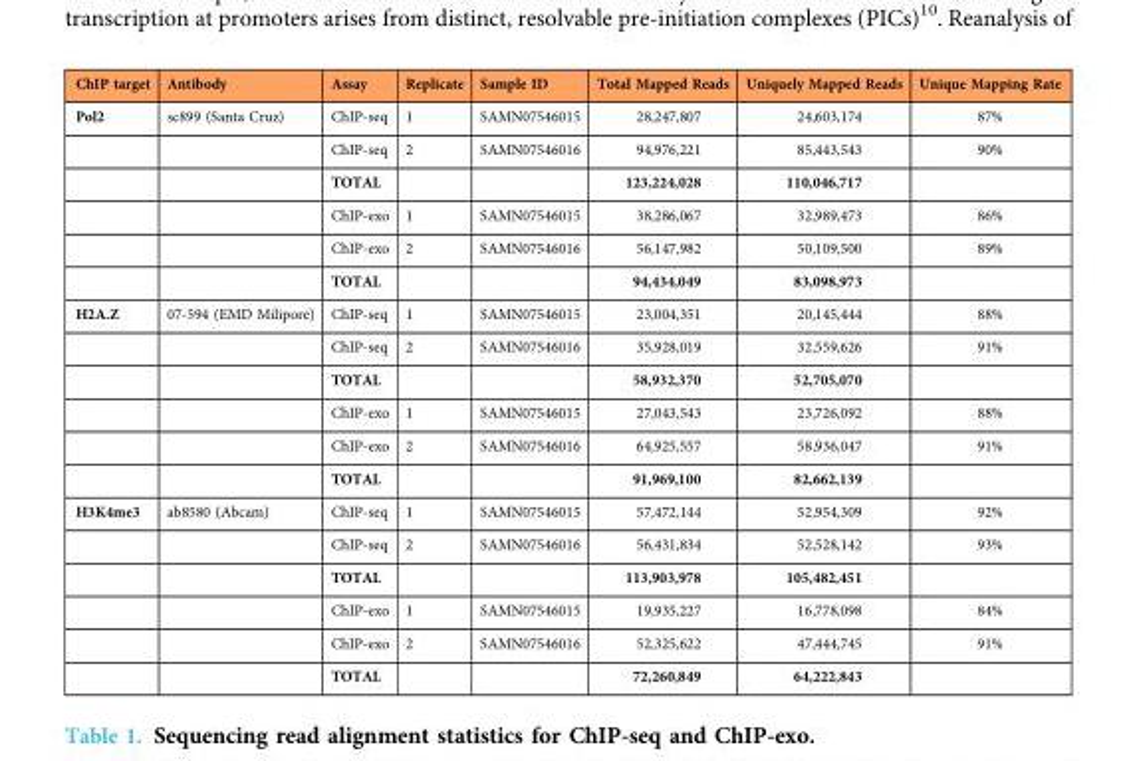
<table><thead><tr><td>ChIP target</td><td>Antibody</td><td>Assay</td><td>Replicate</td><td>Sample ID</td><td>Total Mapped Reads</td><td>Uniquely Mapped Reads</td><td>Unique Mapping Rate</td></tr></thead><tbody><tr><td rowspan="6">Pol2</td><td>sc899 (Santa Cruz)</td><td>ChIP-seq</td><td>1</td><td>SAMN07546015</td><td>28,247,807</td><td>24,603,174</td><td>87%</td></tr><tr><td></td><td>ChIP-seq</td><td>2</td><td>SAMN07546016</td><td>94,976,221</td><td>85,443,543</td><td>90%</td></tr><tr><td></td><td>TOTAL</td><td></td><td></td><td>123,224,028</td><td>110,046,717</td><td></td></tr><tr><td></td><td>ChIP-exo</td><td>1</td><td>SAMN07546015</td><td>38,286,067</td><td>32,989,473</td><td>86%</td></tr><tr><td></td><td>ChIP-exo</td><td>2</td><td>SAMN07546016</td><td>56,147,982</td><td>50,109,500</td><td>89%</td></tr><tr><td></td><td>TOTAL</td><td></td><td></td><td>94,434,049</td><td>83,098,973</td><td></td></tr><tr><td rowspan="6">H2A.Z</td><td>07-594 (EMD Milipore)</td><td>ChIP-seq</td><td>1</td><td>SAMN07546015</td><td>23,004,351</td><td>20,145,444</td><td>88%</td></tr><tr><td></td><td>ChIP-seq</td><td>2</td><td>SAMN07546016</td><td>35,928,019</td><td>32,559,626</td><td>91%</td></tr><tr><td></td><td>TOTAL</td><td></td><td></td><td>58,932,370</td><td>52,705,070</td><td></td></tr><tr><td></td><td>ChIP-exo</td><td>1</td><td>SAMN07546015</td><td>27,043,543</td><td>23,726,092</td><td>88%</td></tr><tr><td></td><td>ChIP-exo</td><td>2</td><td>SAMN07546016</td><td>64,925,557</td><td>58,936,047</td><td>91%</td></tr><tr><td></td><td>TOTAL</td><td></td><td></td><td>91,969,100</td><td>82,662,139</td><td></td></tr><tr><td rowspan="6">H3K4me3</td><td>ab8580 (Abcam)</td><td>ChIP-seq</td><td>1</td><td>SAMN07546015</td><td>57,472,144</td><td>52,954,309</td><td>92%</td></tr><tr><td></td><td>ChIP-seq</td><td>2</td><td>SAMN07546016</td><td>56,431,834</td><td>52,528,142</td><td>93%</td></tr><tr><td></td><td>TOTAL</td><td></td><td></td><td>113,903,978</td><td>105,482,451</td><td></td></tr><tr><td></td><td>ChIP-exo</td><td>1</td><td>SAMN07546015</td><td>19,935,227</td><td>16,778,098</td><td>84%</td></tr><tr><td></td><td>ChIP-exo</td><td>2</td><td>SAMN07546016</td><td>52,325,622</td><td>47,444,745</td><td>91%</td></tr><tr><td></td><td>TOTAL</td><td></td><td></td><td>72,260,849</td><td>64,222,843</td><td></td></tr></tbody></table>